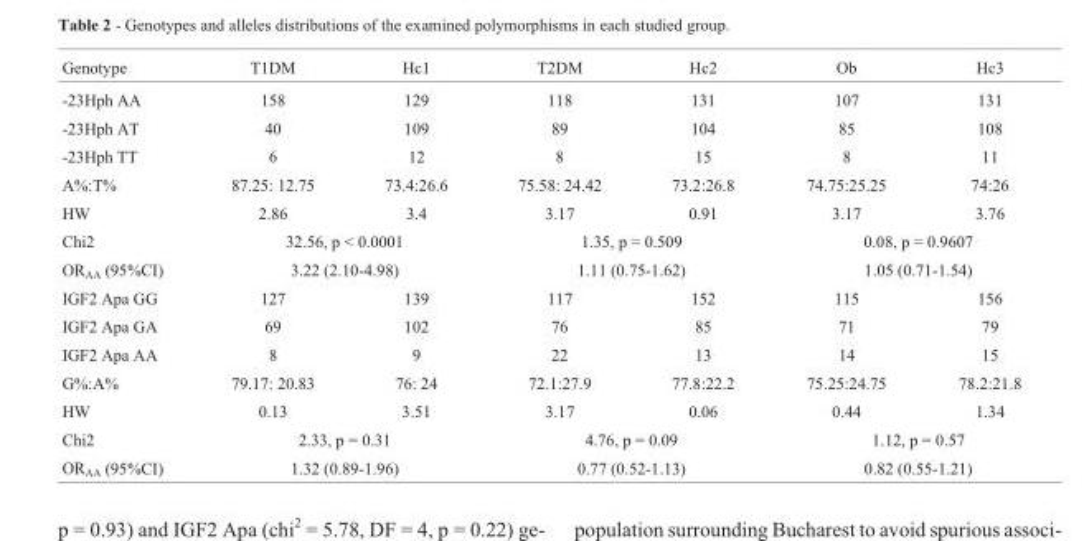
<table><thead><tr><td>Genotype</td><td>T1DM</td><td>Hc1</td><td>T2DM</td><td>Hc2</td><td>Ob</td><td>Hc3</td></tr></thead><tbody><tr><td>-23Hph AA</td><td>158</td><td>129</td><td>118</td><td>131</td><td>107</td><td>131</td></tr><tr><td>-23Hph AT</td><td>40</td><td>109</td><td>89</td><td>104</td><td>85</td><td>108</td></tr><tr><td>-23Hph TT</td><td>6</td><td>12</td><td>8</td><td>15</td><td>8</td><td>11</td></tr><tr><td>A%:T%</td><td>87.25: 12.75</td><td>73.4:26.6</td><td>75.58: 24.42</td><td>73.2:26.8</td><td>74.75:25.25</td><td>74:26</td></tr><tr><td>HW</td><td>2.86</td><td>3.4</td><td>3.17</td><td>0.91</td><td>3.17</td><td>3.76</td></tr><tr><td>Chi2</td><td colspan="2">32.56, p &lt; 0.0001</td><td colspan="2">1.35, p = 0.509</td><td colspan="2">0.08, p = 0.9607</td></tr><tr><td>OR<sub>AA</sub> (95%CI)</td><td colspan="2">3.22 (2.10-4.98)</td><td colspan="2">1.11 (0.75-1.62)</td><td colspan="2">1.05 (0.71-1.54)</td></tr><tr><td>IGF2 Apa GG</td><td>127</td><td>139</td><td>117</td><td>152</td><td>115</td><td>156</td></tr><tr><td>IGF2 Apa GA</td><td>69</td><td>102</td><td>76</td><td>85</td><td>71</td><td>79</td></tr><tr><td>IGF2 Apa AA</td><td>8</td><td>9</td><td>22</td><td>13</td><td>14</td><td>15</td></tr><tr><td>G%:A%</td><td>79.17: 20.83</td><td>76: 24</td><td>72.1:27.9</td><td>77.8:22.2</td><td>75.25:24.75</td><td>78.2:21.8</td></tr><tr><td>HW</td><td>0.13</td><td>3.51</td><td>3.17</td><td>0.06</td><td>0.44</td><td>1.34</td></tr><tr><td>Chi2</td><td colspan="2">2.33, p = 0.31</td><td colspan="2">4.76, p = 0.09</td><td colspan="2">1.12, p = 0.57</td></tr><tr><td>OR<sub>AA</sub> (95%CI)</td><td colspan="2">1.32 (0.89-1.96)</td><td colspan="2">0.77 (0.52-1.13)</td><td colspan="2">0.82 (0.55-1.21)</td></tr></tbody></table>